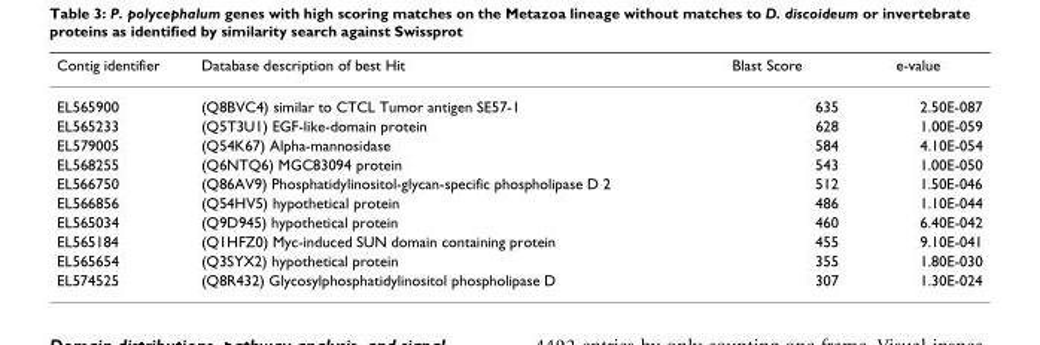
<table><thead><tr><td>Contig identifier</td><td>Database description of best Hit</td><td>Blast Score</td><td>e-value</td></tr></thead><tbody><tr><td>EL565900</td><td>(Q8BVC4) similar to CTCL Tumor antigen SE57-1</td><td>635</td><td>2.50E-087</td></tr><tr><td>EL565233</td><td>(Q5T3U1) EGF-like-domain protein</td><td>628</td><td>1.00E-059</td></tr><tr><td>EL579005</td><td>(Q54K67) Alpha-mannosidase</td><td>584</td><td>4.10E-054</td></tr><tr><td>EL568255</td><td>(Q6NTQ6) MGC83094 protein</td><td>543</td><td>1.00E-050</td></tr><tr><td>EL566750</td><td>(Q86AV9) Phosphatidylinositol-glycan-specific phospholipase D 2</td><td>512</td><td>1.50E-046</td></tr><tr><td>EL566856</td><td>(Q54HV5) hypothetical protein</td><td>486</td><td>1.10E-044</td></tr><tr><td>EL565034</td><td>(Q9D945) hypothetical protein</td><td>460</td><td>6.40E-042</td></tr><tr><td>EL565184</td><td>(Q1HFZ0) Myc-induced SUN domain containing protein</td><td>455</td><td>9.10E-041</td></tr><tr><td>EL565654</td><td>(Q3SYX2) hypothetical protein</td><td>355</td><td>1.80E-030</td></tr><tr><td>EL574525</td><td>(Q8R432) Glycosylphosphatidylinositol phospholipase D</td><td>307</td><td>1.30E-024</td></tr></tbody></table>